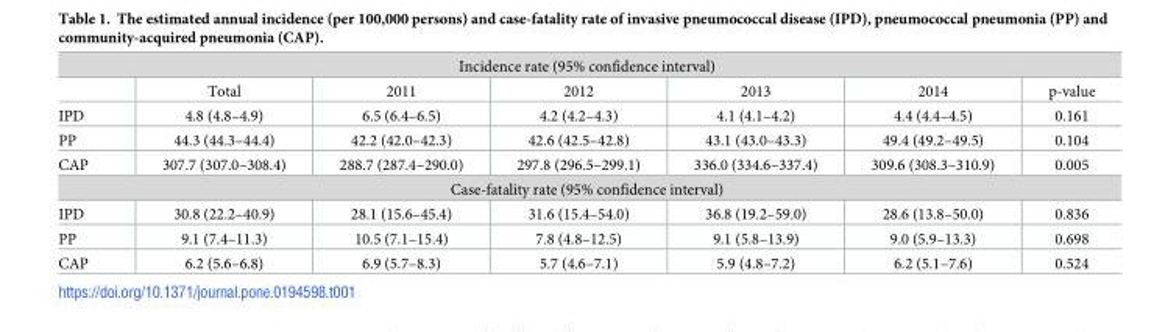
<table><tbody><tr><td colspan="7">Incidence rate (95% confidence interval)</td></tr><tr><td></td><td>Total</td><td>2011</td><td>2012</td><td>2013</td><td>2014</td><td>p-value</td></tr><tr><td>IPD</td><td>4.8 (4.8–4.9)</td><td>6.5 (6.4–6.5)</td><td>4.2 (4.2–4.3)</td><td>4.1 (4.1–4.2)</td><td>4.4 (4.4–4.5)</td><td>0.161</td></tr><tr><td>PP</td><td>44.3 (44.3–44.4)</td><td>42.2 (42.0–42.3)</td><td>42.6 (42.5–42.8)</td><td>43.1 (43.0–43.3)</td><td>49.4 (49.2–49.5)</td><td>0.104</td></tr><tr><td>CAP</td><td>307.7 (307.0–308.4)</td><td>288.7 (287.4–290.0)</td><td>297.8 (296.5–299.1)</td><td>336.0 (334.6–337.4)</td><td>309.6 (308.3–310.9)</td><td>0.005</td></tr><tr><td colspan="7">Case-fatality rate (95% confidence interval)</td></tr><tr><td>IPD</td><td>30.8 (22.2–40.9)</td><td>28.1 (15.6–45.4)</td><td>31.6 (15.4–54.0)</td><td>36.8 (19.2–59.0)</td><td>28.6 (13.8–50.0)</td><td>0.836</td></tr><tr><td>PP</td><td>9.1 (7.4–11.3)</td><td>10.5 (7.1–15.4)</td><td>7.8 (4.8–12.5)</td><td>9.1 (5.8–13.9)</td><td>9.0 (5.9–13.3)</td><td>0.698</td></tr><tr><td>CAP</td><td>6.2 (5.6–6.8)</td><td>6.9 (5.7–8.3)</td><td>5.7 (4.6–7.1)</td><td>5.9 (4.8–7.2)</td><td>6.2 (5.1–7.6)</td><td>0.524</td></tr></tbody></table>